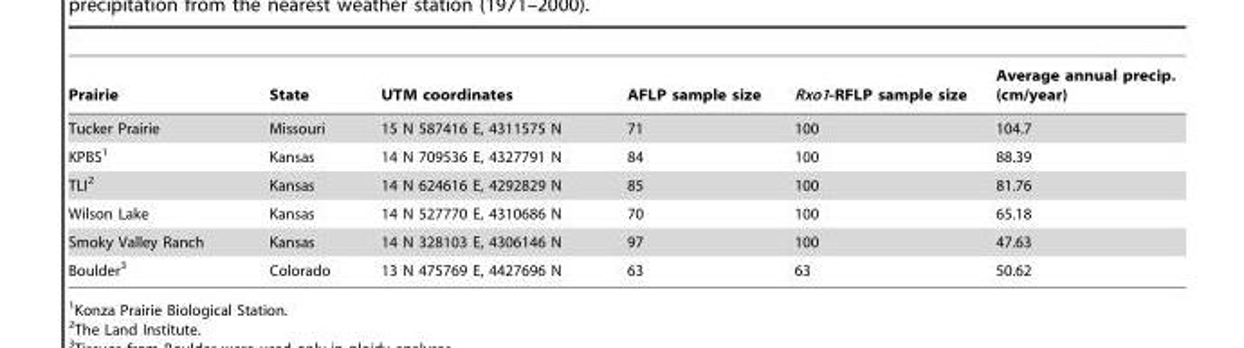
<table><thead><tr><td>Prairie</td><td>State</td><td>UTM coordinates</td><td>AFLP sample size</td><td>Rxo1-RFLP sample size</td><td>Average annual precip. (cm/year)</td></tr></thead><tbody><tr><td>Tucker Prairie</td><td>Missouri</td><td>15 N 587416 E, 4311575 N</td><td>71</td><td>100</td><td>104.7</td></tr><tr><td>KPBS<sup>1</sup></td><td>Kansas</td><td>14 N 709536 E, 4327791 N</td><td>84</td><td>100</td><td>88.39</td></tr><tr><td>TLI<sup>2</sup></td><td>Kansas</td><td>14 N 624616 E, 4292829 N</td><td>85</td><td>100</td><td>81.76</td></tr><tr><td>Wilson Lake</td><td>Kansas</td><td>14 N 527770 E, 4310686 N</td><td>70</td><td>100</td><td>65.18</td></tr><tr><td>Smoky Valley Ranch</td><td>Kansas</td><td>14 N 328103 E, 4306146 N</td><td>97</td><td>100</td><td>47.63</td></tr><tr><td>Boulder<sup>3</sup></td><td>Colorado</td><td>13 N 475769 E, 4427696 N</td><td>63</td><td>63</td><td>50.62</td></tr></tbody></table>